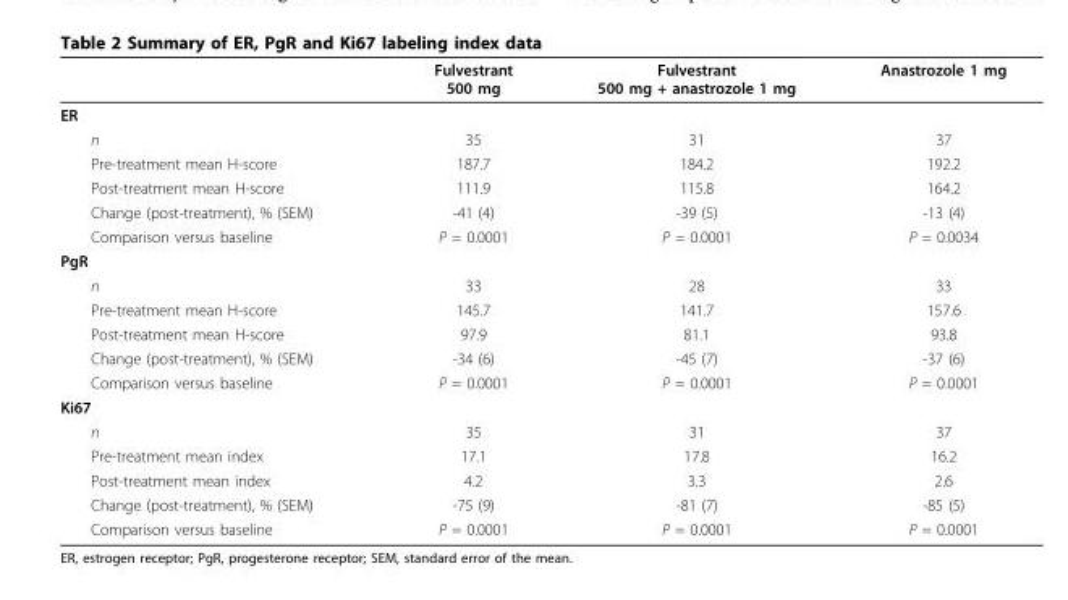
<table><thead><tr><td></td><td>Fulvestrant 500 mg</td><td>Fulvestrant 500 mg + anastrozole 1 mg</td><td>Anastrozole 1 mg</td></tr></thead><tbody><tr><td colspan="4">ER</td></tr><tr><td>n</td><td>35</td><td>31</td><td>37</td></tr><tr><td>Pre-treatment mean H-score</td><td>187.7</td><td>184.2</td><td>192.2</td></tr><tr><td>Post-treatment mean H-score</td><td>111.9</td><td>115.8</td><td>164.2</td></tr><tr><td>Change (post-treatment), % (SEM)</td><td>-41 (4)</td><td>-39 (5)</td><td>-13 (4)</td></tr><tr><td>Comparison versus baseline</td><td>P = 0.0001</td><td>P = 0.0001</td><td>P = 0.0034</td></tr><tr><td colspan="4">PgR</td></tr><tr><td>n</td><td>33</td><td>28</td><td>33</td></tr><tr><td>Pre-treatment mean H-score</td><td>145.7</td><td>141.7</td><td>157.6</td></tr><tr><td>Post-treatment mean H-score</td><td>97.9</td><td>81.1</td><td>93.8</td></tr><tr><td>Change (post-treatment), % (SEM)</td><td>-34 (6)</td><td>-45 (7)</td><td>-37 (6)</td></tr><tr><td>Comparison versus baseline</td><td>P = 0.0001</td><td>P = 0.0001</td><td>P = 0.0001</td></tr><tr><td colspan="4">Ki67</td></tr><tr><td>n</td><td>35</td><td>31</td><td>37</td></tr><tr><td>Pre-treatment mean index</td><td>17.1</td><td>17.8</td><td>16.2</td></tr><tr><td>Post-treatment mean index</td><td>4.2</td><td>3.3</td><td>2.6</td></tr><tr><td>Change (post-treatment), % (SEM)</td><td>-75 (9)</td><td>-81 (7)</td><td>-85 (5)</td></tr><tr><td>Comparison versus baseline</td><td>P = 0.0001</td><td>P = 0.0001</td><td>P = 0.0001</td></tr></tbody></table>